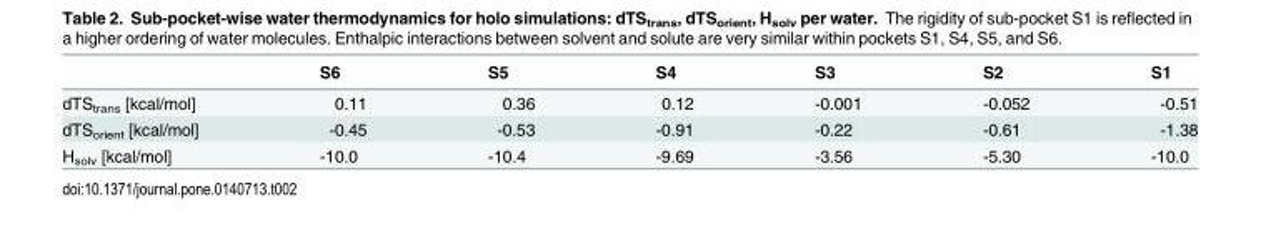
<table><thead><tr><td></td><td>S6</td><td>S5</td><td>S4</td><td>S3</td><td>S2</td><td>S1</td></tr></thead><tbody><tr><td>dTS<sub>trans</sub> [kcal/mol]</td><td>0.11</td><td>0.36</td><td>0.12</td><td>-0.001</td><td>-0.052</td><td>-0.51</td></tr><tr><td>dTS<sub>orient</sub> [kcal/mol]</td><td>-0.45</td><td>-0.53</td><td>-0.91</td><td>-0.22</td><td>-0.61</td><td>-1.38</td></tr><tr><td>H<sub>solv</sub> [kcal/mol]</td><td>-10.0</td><td>-10.4</td><td>-9.69</td><td>-3.56</td><td>-5.30</td><td>-10.0</td></tr></tbody></table>